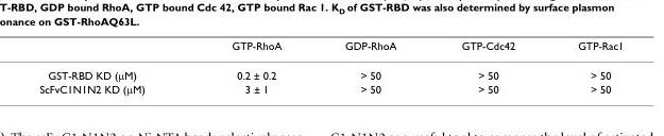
<table><thead><tr><td></td><td>GTP-RhoA</td><td>GDP-RhoA</td><td>GTP-Cdc42</td><td>GTP-Rac1</td></tr></thead><tbody><tr><td>GST-RBD KD (µM)</td><td>0.2 ± 0.2</td><td>&gt; 50</td><td>&gt; 50</td><td>&gt; 50</td></tr><tr><td>ScFvC1N1N2 KD (µM)</td><td>3 ± 1</td><td>&gt; 50</td><td>&gt; 50</td><td>&gt; 50</td></tr></tbody></table>